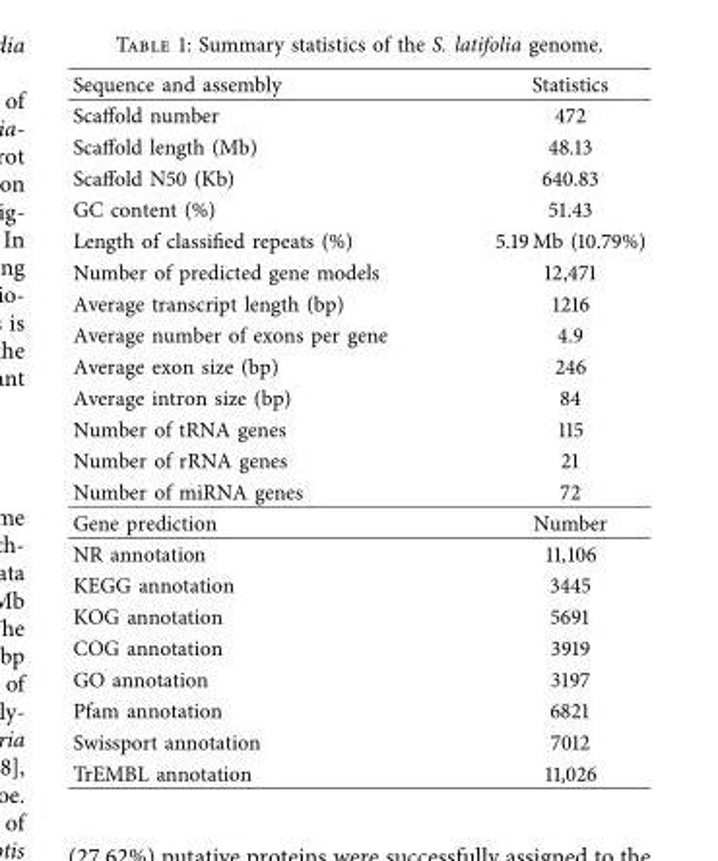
<table><thead><tr><td>Sequence and assembly</td><td>Statistics</td></tr></thead><tbody><tr><td>Scafold number</td><td>472</td></tr><tr><td>Scafold length (Mb)</td><td>48.13</td></tr><tr><td>Scafold N50 (Kb)</td><td>640.83</td></tr><tr><td>GC content (%)</td><td>51.43</td></tr><tr><td>Length of classifed repeats (%)</td><td>5.19 Mb (10.79%)</td></tr><tr><td>Number of predicted gene models</td><td>12,471</td></tr><tr><td>Average transcript length (bp)</td><td>1216</td></tr><tr><td>Average number of exons per gene</td><td>4.9</td></tr><tr><td>Average exon size (bp)</td><td>246</td></tr><tr><td>Average intron size (bp)</td><td>84</td></tr><tr><td>Number of tRNA genes</td><td>115</td></tr><tr><td>Number of rRNA genes</td><td>21</td></tr><tr><td>Number of miRNA genes</td><td>72</td></tr><tr><td>Gene prediction</td><td>Number</td></tr><tr><td>NR annotation</td><td>11,106</td></tr><tr><td>KEGG annotation</td><td>3445</td></tr><tr><td>KOG annotation</td><td>5691</td></tr><tr><td>COG annotation</td><td>3919</td></tr><tr><td>GO annotation</td><td>3197</td></tr><tr><td>Pfam annotation</td><td>6821</td></tr><tr><td>Swissport annotation</td><td>7012</td></tr><tr><td>TrEMBL annotation</td><td>11,026</td></tr></tbody></table>